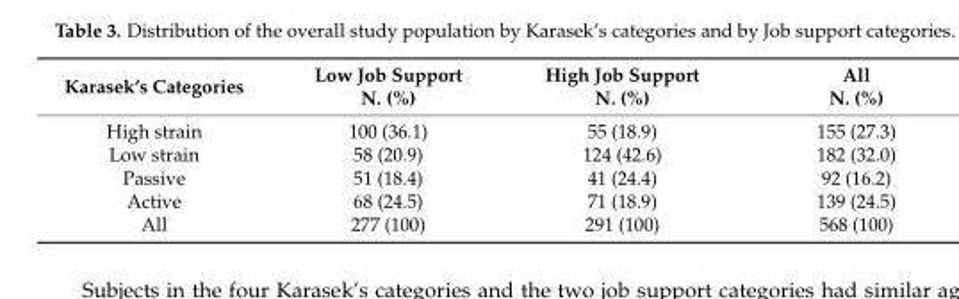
<table><thead><tr><td>Karasek’s Categories</td><td>Low Job Support N. (%)</td><td>High Job Support N. (%)</td><td>All N. (%)</td></tr></thead><tbody><tr><td>High strain</td><td>100 (36.1)</td><td>55 (18.9)</td><td>155 (27.3)</td></tr><tr><td>Low strain</td><td>58 (20.9)</td><td>124 (42.6)</td><td>182 (32.0)</td></tr><tr><td>Passive</td><td>51 (18.4)</td><td>41 (24.4)</td><td>92 (16.2)</td></tr><tr><td>Active</td><td>68 (24.5)</td><td>71 (18.9)</td><td>139 (24.5)</td></tr><tr><td>All</td><td>277 (100)</td><td>291 (100)</td><td>568 (100)</td></tr></tbody></table>